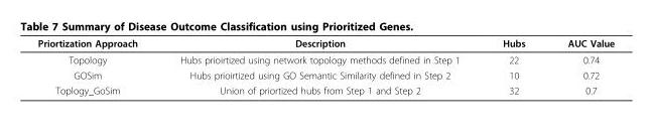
<table><thead><tr><td>Priortization Approach</td><td>Description</td><td>Hubs</td><td>AUC Value</td></tr></thead><tbody><tr><td>Topology</td><td>Hubs prioirtized using network topology methods defined in Step 1</td><td>22</td><td>0.74</td></tr><tr><td>GOSim</td><td>Hubs prioirtized using GO Semantic Similarity defined in Step 2</td><td>10</td><td>0.72</td></tr><tr><td>Toplogy_GoSim</td><td>Union of priortized hubs from Step 1 and Step 2</td><td>32</td><td>0.7</td></tr></tbody></table>